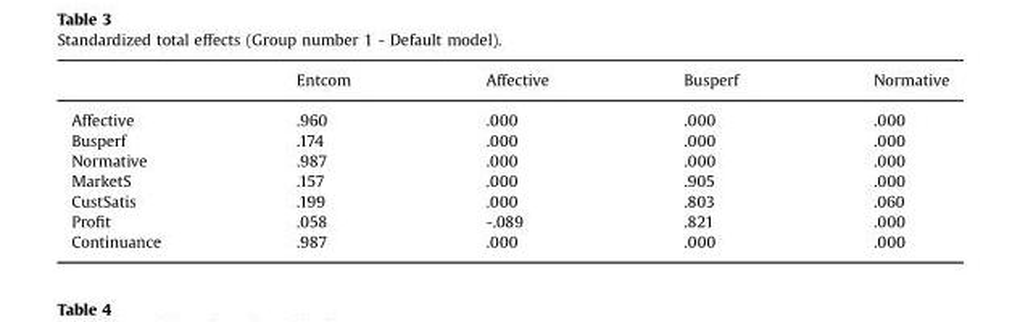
<table><thead><tr><td></td><td>Entcom</td><td>Affective</td><td>Busperf</td><td>Normative</td></tr></thead><tbody><tr><td>Affective</td><td>.960</td><td>.000</td><td>.000</td><td>.000</td></tr><tr><td>Busperf</td><td>.174</td><td>.000</td><td>.000</td><td>.000</td></tr><tr><td>Normative</td><td>.987</td><td>.000</td><td>.000</td><td>.000</td></tr><tr><td>MarketS</td><td>.157</td><td>.000</td><td>.905</td><td>.000</td></tr><tr><td>CustSatis</td><td>.199</td><td>.000</td><td>.803</td><td>.060</td></tr><tr><td>Profit</td><td>.058</td><td>-.089</td><td>.821</td><td>.000</td></tr><tr><td>Continuance</td><td>.987</td><td>.000</td><td>.000</td><td>.000</td></tr></tbody></table>